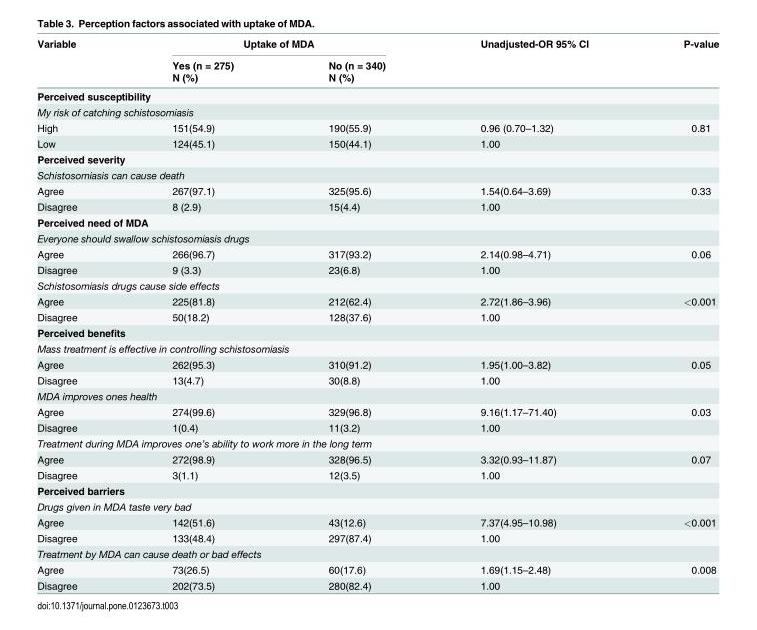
<table><thead><tr><td rowspan="3">Variable</td><td colspan="2">Uptake of MDA</td><td rowspan="3">Unadjusted-OR 95% CI</td><td rowspan="3">P-value</td></tr><tr><td rowspan="2">Yes (n = 275) N (%)</td><td rowspan="2">No (n = 340) N (%)</td></tr><tr></tr></thead><tbody><tr><td colspan="5">Perceived susceptibility</td></tr><tr><td colspan="5">My risk of catching schistosomiasis</td></tr><tr><td>High</td><td>151(54.9)</td><td>190(55.9)</td><td>0.96 (0.70–1.32)</td><td>0.81</td></tr><tr><td>Low</td><td>124(45.1)</td><td>150(44.1)</td><td>1.00</td><td></td></tr><tr><td colspan="5">Perceived severity</td></tr><tr><td colspan="5">Schistosomiasis can cause death</td></tr><tr><td>Agree</td><td>267(97.1)</td><td>325(95.6)</td><td>1.54(0.64–3.69)</td><td>0.33</td></tr><tr><td>Disagree</td><td>8 (2.9)</td><td>15(4.4)</td><td>1.00</td><td></td></tr><tr><td colspan="5">Perceived need of MDA</td></tr><tr><td colspan="5">Everyone should swallow schistosomiasis drugs</td></tr><tr><td>Agree</td><td>266(96.7)</td><td>317(93.2)</td><td>2.14(0.98–4.71)</td><td>0.06</td></tr><tr><td>Disagree</td><td>9 (3.3)</td><td>23(6.8)</td><td>1.00</td><td></td></tr><tr><td colspan="5">Schistosomiasis drugs cause side effects</td></tr><tr><td>Agree</td><td>225(81.8)</td><td>212(62.4)</td><td>2.72(1.86–3.96)</td><td>&lt;0.001</td></tr><tr><td>Disagree</td><td>50(18.2)</td><td>128(37.6)</td><td>1.00</td><td></td></tr><tr><td colspan="5">Perceived benefits</td></tr><tr><td colspan="5">Mass treatment is effective in controlling schistosomiasis</td></tr><tr><td>Agree</td><td>262(95.3)</td><td>310(91.2)</td><td>1.95(1.00–3.82)</td><td>0.05</td></tr><tr><td>Disagree</td><td>13(4.7)</td><td>30(8.8)</td><td>1.00</td><td></td></tr><tr><td colspan="5">MDA improves ones health</td></tr><tr><td>Agree</td><td>274(99.6)</td><td>329(96.8)</td><td>9.16(1.17–71.40)</td><td>0.03</td></tr><tr><td>Disagree</td><td>1(0.4)</td><td>11(3.2)</td><td>1.00</td><td></td></tr><tr><td colspan="5">Treatment during MDA improves one’s ability to work more in the long term</td></tr><tr><td>Agree</td><td>272(98.9)</td><td>328(96.5)</td><td>3.32(0.93–11.87)</td><td>0.07</td></tr><tr><td>Disagree</td><td>3(1.1)</td><td>12(3.5)</td><td>1.00</td><td></td></tr><tr><td colspan="5">Perceived barriers</td></tr><tr><td colspan="5">Drugs given in MDA taste very bad</td></tr><tr><td>Agree</td><td>142(51.6)</td><td>43(12.6)</td><td>7.37(4.95–10.98)</td><td>&lt;0.001</td></tr><tr><td>Disagree</td><td>133(48.4)</td><td>297(87.4)</td><td>1.00</td><td></td></tr><tr><td colspan="5">Treatment by MDA can cause death or bad effects</td></tr><tr><td>Agree</td><td>73(26.5)</td><td>60(17.6)</td><td>1.69(1.15–2.48)</td><td>0.008</td></tr><tr><td>Disagree</td><td>202(73.5)</td><td>280(82.4)</td><td>1.00</td><td></td></tr></tbody></table>